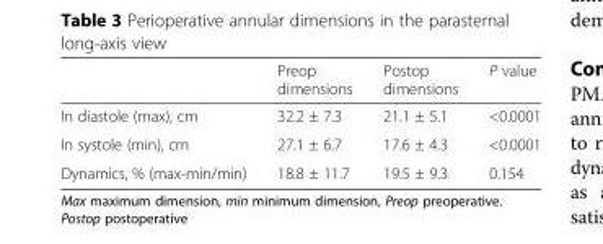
<table><thead><tr><td></td><td>Preop dimensions</td><td>Postop dimensions</td><td>P value</td></tr></thead><tbody><tr><td>In diastole (max), cm</td><td>32.2 ± 7.3</td><td>21.1 ± 5.1</td><td>&lt;0.0001</td></tr><tr><td>In systole (min), cm</td><td>27.1 ± 6.7</td><td>17.6 ± 4.3</td><td>&lt;0.0001</td></tr><tr><td>Dynamics, % (max-min/min)</td><td>18.8 ± 11.7</td><td>19.5 ± 9.3</td><td>0.154</td></tr></tbody></table>